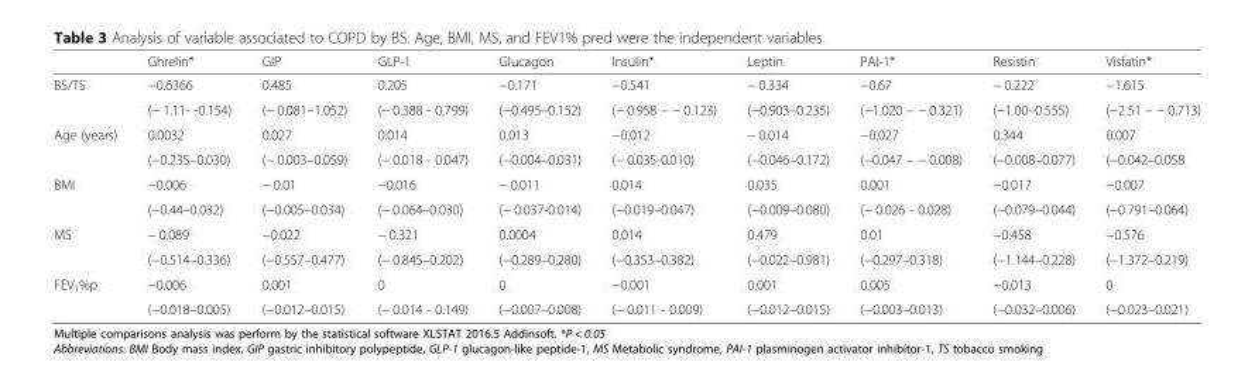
<table><thead><tr><td></td><td>Ghrelin*</td><td>GIP</td><td>GLP-1</td><td>Glucagon</td><td>Insulin*</td><td>Leptin</td><td>PAI-1*</td><td>Resistin</td><td>Visfatin*</td></tr></thead><tbody><tr><td rowspan="2">BS/TS</td><td>−0.6366</td><td>0.485</td><td>0.205</td><td>−0.171</td><td>−0.541</td><td>− 0.334</td><td>−0.67</td><td>− 0.222</td><td>−1.615</td></tr><tr><td>(− 1.11- -0.154)</td><td>(− 0.081–1.052)</td><td>(− 0.388 - 0.799)</td><td>(−0.495–0.152)</td><td>(− 0.958 – − 0.123)</td><td>(−0.903–0.235)</td><td>(−1.020 – − 0.321)</td><td>(−1.00–0.555)</td><td>(−2.51 – − 0.713)</td></tr><tr><td rowspan="2">Age (years)</td><td>0.0032</td><td>0.027</td><td>0.014</td><td>0.013</td><td>−0.012</td><td>− 0.014</td><td>−0.027</td><td>0.344</td><td>0.007</td></tr><tr><td>(−0.235–0.030)</td><td>(− 0.003–0.059)</td><td>(− 0.018 - 0.047)</td><td>(−0.004–0.031)</td><td>(− 0.035-0.010)</td><td>(−0.046–0.172)</td><td>(−0.047 – − 0.008)</td><td>(−0.008–0.077)</td><td>(−0.042–0.058</td></tr><tr><td rowspan="2">BMI</td><td>−0.006</td><td>− 0.01</td><td>−0.016</td><td>− 0.011</td><td>0.014</td><td>0.035</td><td>0.001</td><td>−0.017</td><td>−0.007</td></tr><tr><td>(−0.44–0.032)</td><td>(−0.005–0.034)</td><td>(− 0.064–0.030)</td><td>(− 0.037-0.014)</td><td>(−0.019–0.047)</td><td>(−0.009–0.080)</td><td>(− 0.026 - 0.028)</td><td>(−0.079–0.044)</td><td>(−0.791–0.064)</td></tr><tr><td rowspan="2">MS</td><td>− 0.089</td><td>−0.022</td><td>− 0.321</td><td>0.0004</td><td>0.014</td><td>0.479</td><td>0.01</td><td>−0.458</td><td>−0.576</td></tr><tr><td>(−0.514–0.336)</td><td>(−0.557–0.477)</td><td>(− 0.845–0.202)</td><td>(−0.289–0.280)</td><td>(−0.353–0.382)</td><td>(−0.022–0.981)</td><td>(−0.297–0.318)</td><td>(−1.144–0.228)</td><td>(−1.372–0.219)</td></tr><tr><td rowspan="2">FEV<sub>1</sub>%p</td><td>−0.006</td><td>0.001</td><td>0</td><td>0</td><td>−0.001</td><td>0.001</td><td>0.005</td><td>−0.013</td><td>0</td></tr><tr><td>(−0.018–0.005)</td><td>(−0.012–0.015)</td><td>(− 0.014 - 0.149)</td><td>(−0.007–0.008)</td><td>(− 0.011 - 0.009)</td><td>(−0.012–0.015)</td><td>(−0.003–0.013)</td><td>(−0.032–0.006)</td><td>(−0.023–0.021)</td></tr></tbody></table>